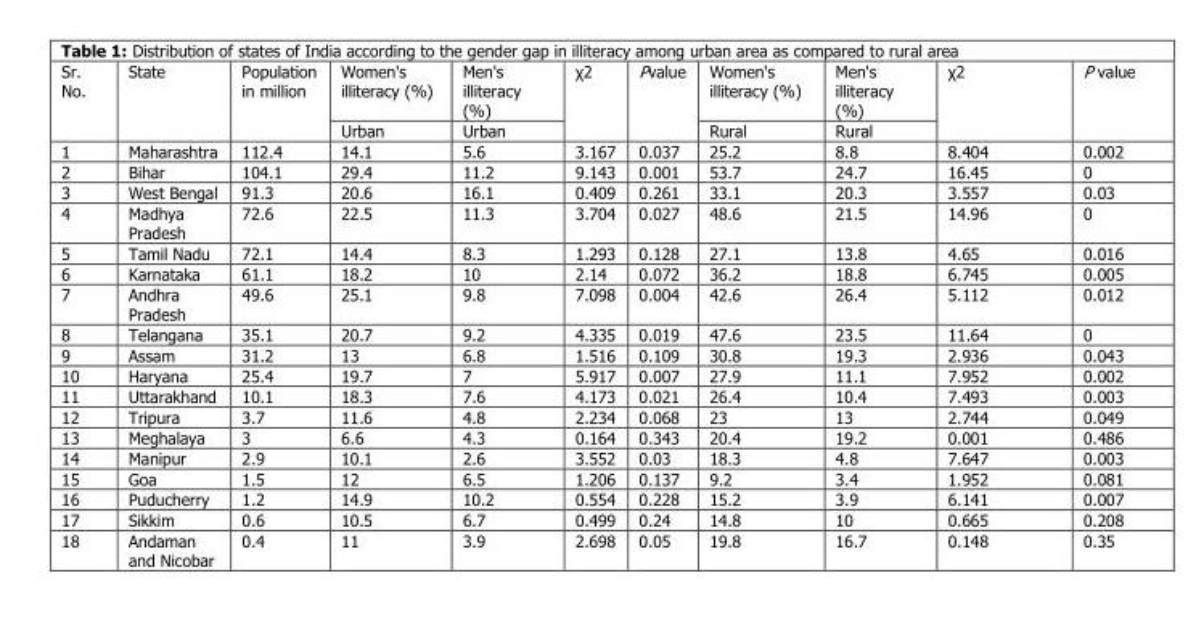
<table><thead><tr><td rowspan="2">Sr. No.</td><td rowspan="2">State</td><td rowspan="2">Population in million</td><td rowspan="2">Women&#x27;s illiteracy (%) Urban</td><td rowspan="2">Men&#x27;s illiteracy (%) Urban</td><td rowspan="2">χ2</td><td rowspan="2">Pvalue</td><td rowspan="2">Women&#x27;s illiteracy (%) Rural</td><td rowspan="2">Men&#x27;s illiteracy (%) Rural</td><td rowspan="2">χ2</td><td rowspan="2">P value</td></tr><tr></tr></thead><tbody><tr><td>1</td><td>Maharashtra</td><td>112.4</td><td>14.1</td><td>5.6</td><td>3.167</td><td>0.037</td><td>25.2</td><td>8.8</td><td>8.404</td><td>0.002</td></tr><tr><td>2</td><td>Bihar</td><td>104.1</td><td>29.4</td><td>11.2</td><td>9.143</td><td>0.001</td><td>53.7</td><td>24.7</td><td>16.45</td><td>0</td></tr><tr><td>3</td><td>West Bengal</td><td>91.3</td><td>20.6</td><td>16.1</td><td>0.409</td><td>0.261</td><td>33.1</td><td>20.3</td><td>3.557</td><td>0.03</td></tr><tr><td>4</td><td>Madhya Pradesh</td><td>72.6</td><td>22.5</td><td>11.3</td><td>3.704</td><td>0.027</td><td>48.6</td><td>21.5</td><td>14.96</td><td>0</td></tr><tr><td>5</td><td>Tamil Nadu</td><td>72.1</td><td>14.4</td><td>8.3</td><td>1.293</td><td>0.128</td><td>27.1</td><td>13.8</td><td>4.65</td><td>0.016</td></tr><tr><td>6</td><td>Karnataka</td><td>61.1</td><td>18.2</td><td>10</td><td>2.14</td><td>0.072</td><td>36.2</td><td>18.8</td><td>6.745</td><td>0.005</td></tr><tr><td>7</td><td>Andhra Pradesh</td><td>49.6</td><td>25.1</td><td>9.8</td><td>7.098</td><td>0.004</td><td>42.6</td><td>26.4</td><td>5.112</td><td>0.012</td></tr><tr><td>8</td><td>Telangana</td><td>35.1</td><td>20.7</td><td>9.2</td><td>4.335</td><td>0.019</td><td>47.6</td><td>23.5</td><td>11.64</td><td>0</td></tr><tr><td>9</td><td>Assam</td><td>31.2</td><td>13</td><td>6.8</td><td>1.516</td><td>0.109</td><td>30.8</td><td>19.3</td><td>2.936</td><td>0.043</td></tr><tr><td>10</td><td>Haryana</td><td>25.4</td><td>19.7</td><td>7</td><td>5.917</td><td>0.007</td><td>27.9</td><td>11.1</td><td>7.952</td><td>0.002</td></tr><tr><td>11</td><td>Uttarakhand</td><td>10.1</td><td>18.3</td><td>7.6</td><td>4.173</td><td>0.021</td><td>26.4</td><td>10.4</td><td>7.493</td><td>0.003</td></tr><tr><td>12</td><td>Tripura</td><td>3.7</td><td>11.6</td><td>4.8</td><td>2.234</td><td>0.068</td><td>23</td><td>13</td><td>2.744</td><td>0.049</td></tr><tr><td>13</td><td>Meghalaya</td><td>3</td><td>6.6</td><td>4.3</td><td>0.164</td><td>0.343</td><td>20.4</td><td>19.2</td><td>0.001</td><td>0.486</td></tr><tr><td>14</td><td>Manipur</td><td>2.9</td><td>10.1</td><td>2.6</td><td>3.552</td><td>0.03</td><td>18.3</td><td>4.8</td><td>7.647</td><td>0.003</td></tr><tr><td>15</td><td>Goa</td><td>1.5</td><td>12</td><td>6.5</td><td>1.206</td><td>0.137</td><td>9.2</td><td>3.4</td><td>1.952</td><td>0.081</td></tr><tr><td>16</td><td>Puducherry</td><td>1.2</td><td>14.9</td><td>10.2</td><td>0.554</td><td>0.228</td><td>15.2</td><td>3.9</td><td>6.141</td><td>0.007</td></tr><tr><td>17</td><td>Sikkim</td><td>0.6</td><td>10.5</td><td>6.7</td><td>0.499</td><td>0.24</td><td>14.8</td><td>10</td><td>0.665</td><td>0.208</td></tr><tr><td>18</td><td>Andaman and Nicobar</td><td>0.4</td><td>11</td><td>3.9</td><td>2.698</td><td>0.05</td><td>19.8</td><td>16.7</td><td>0.148</td><td>0.35</td></tr></tbody></table>